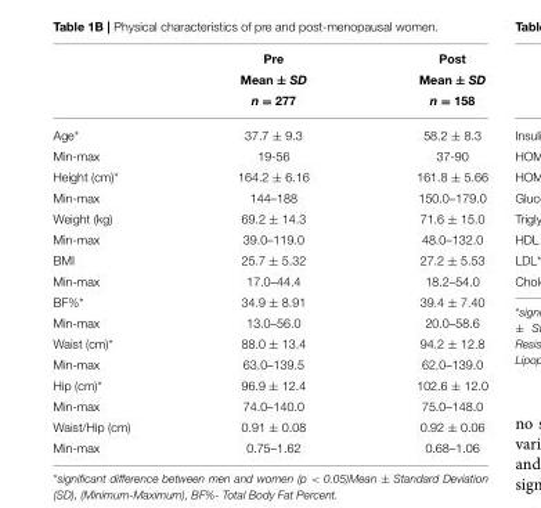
<table><thead><tr><td rowspan="3"></td><td rowspan="3">Pre Mean ± SD n = 277</td><td rowspan="3">Post Mean ± SD n = 158</td></tr><tr></tr><tr></tr></thead><tbody><tr><td>Age*</td><td>37.7 ± 9.3</td><td>58.2 ± 8.3</td></tr><tr><td>Min-max</td><td>19-56</td><td>37-90</td></tr><tr><td>Height (cm)*</td><td>164.2 ± 6.16</td><td>161.8 ± 5.66</td></tr><tr><td>Min-max</td><td>144–188</td><td>150.0–179.0</td></tr><tr><td>Weight (kg)</td><td>69.2 ± 14.3</td><td>71.6 ± 15.0</td></tr><tr><td>Min-max</td><td>39.0–119.0</td><td>48.0–132.0</td></tr><tr><td>BMI</td><td>25.7 ± 5.32</td><td>27.2 ± 5.53</td></tr><tr><td>Min-max</td><td>17.0–44.4</td><td>18.2–54.0</td></tr><tr><td>BF%*</td><td>34.9 ± 8.91</td><td>39.4 ± 7.40</td></tr><tr><td>Min-max</td><td>13.0–56.0</td><td>20.0–58.6</td></tr><tr><td>Waist (cm)*</td><td>88.0 ± 13.4</td><td>94.2 ± 12.8</td></tr><tr><td>Min-max</td><td>63.0–139.5</td><td>62.0–139.0</td></tr><tr><td>Hip (cm)*</td><td>96.9 ± 12.4</td><td>102.6 ± 12.0</td></tr><tr><td>Min-max</td><td>74.0–140.0</td><td>75.0–148.0</td></tr><tr><td>Waist/Hip (cm)</td><td>0.91 ± 0.08</td><td>0.92 ± 0.06</td></tr><tr><td>Min-max</td><td>0.75–1.62</td><td>0.68–1.06</td></tr></tbody></table>